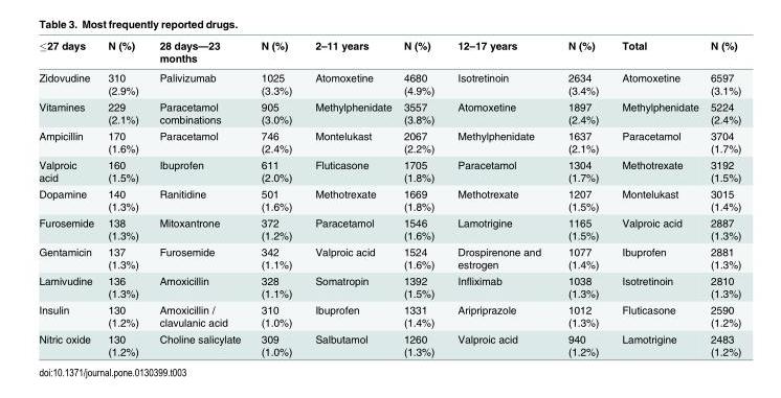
<table><thead><tr><td>≤27 days</td><td>N (%)</td><td>28 days—23 months</td><td>N (%)</td><td>2–11 years</td><td>N (%)</td><td>12–17 years</td><td>N (%)</td><td>Total</td><td>N (%)</td></tr></thead><tbody><tr><td>Zidovudine</td><td>310 (2.9%)</td><td>Palivizumab</td><td>1025 (3.3%)</td><td>Atomoxetine</td><td>4680 (4.9%)</td><td>Isotretinoin</td><td>2634 (3.4%)</td><td>Atomoxetine</td><td>6597 (3.1%)</td></tr><tr><td>Vitamines</td><td>229 (2.1%)</td><td>Paracetamol combinations</td><td>905 (3.0%)</td><td>Methylphenidate</td><td>3557 (3.8%)</td><td>Atomoxetine</td><td>1897 (2.4%)</td><td>Methylphenidate</td><td>5224 (2.4%)</td></tr><tr><td>Ampicillin</td><td>170 (1.6%)</td><td>Paracetamol</td><td>746 (2.4%)</td><td>Montelukast</td><td>2067 (2.2%)</td><td>Methylphenidate</td><td>1637 (2.1%)</td><td>Paracetamol</td><td>3704 (1.7%)</td></tr><tr><td>Valproic acid</td><td>160 (1.5%)</td><td>Ibuprofen</td><td>611 (2.0%)</td><td>Fluticasone</td><td>1705 (1.8%)</td><td>Paracetamol</td><td>1304 (1.7%)</td><td>Methotrexate</td><td>3192 (1.5%)</td></tr><tr><td>Dopamine</td><td>140 (1.3%)</td><td>Ranitidine</td><td>501 (1.6%)</td><td>Methotrexate</td><td>1669 (1.8%)</td><td>Methotrexate</td><td>1207 (1.5%)</td><td>Montelukast</td><td>3015 (1.4%)</td></tr><tr><td>Furosemide</td><td>138 (1.3%)</td><td>Mitoxantrone</td><td>372 (1.2%)</td><td>Paracetamol</td><td>1546 (1.6%)</td><td>Lamotrigine</td><td>1165 (1.5%)</td><td>Valproic acid</td><td>2887 (1.3%)</td></tr><tr><td>Gentamicin</td><td>137 (1.3%)</td><td>Furosemide</td><td>342 (1.1%)</td><td>Valproic acid</td><td>1524 (1.6%)</td><td>Drospirenone and estrogen</td><td>1077 (1.4%)</td><td>Ibuprofen</td><td>2881 (1.3%)</td></tr><tr><td>Lamivudine</td><td>136 (1.3%)</td><td>Amoxicillin</td><td>328 (1.1%)</td><td>Somatropin</td><td>1392 (1.5%)</td><td>Infliximab</td><td>1038 (1.3%)</td><td>Isotretinoin</td><td>2810 (1.3%)</td></tr><tr><td>Insulin</td><td>130 (1.2%)</td><td>Amoxicillin / clavulanic acid</td><td>310 (1.0%)</td><td>Ibuprofen</td><td>1331 (1.4%)</td><td>Aripriprazole</td><td>1012 (1.3%)</td><td>Fluticasone</td><td>2590 (1.2%)</td></tr><tr><td>Nitric oxide</td><td>130 (1.2%)</td><td>Choline salicylate</td><td>309 (1.0%)</td><td>Salbutamol</td><td>1260 (1.3%)</td><td>Valproic acid</td><td>940 (1.2%)</td><td>Lamotrigine</td><td>2483 (1.2%)</td></tr></tbody></table>